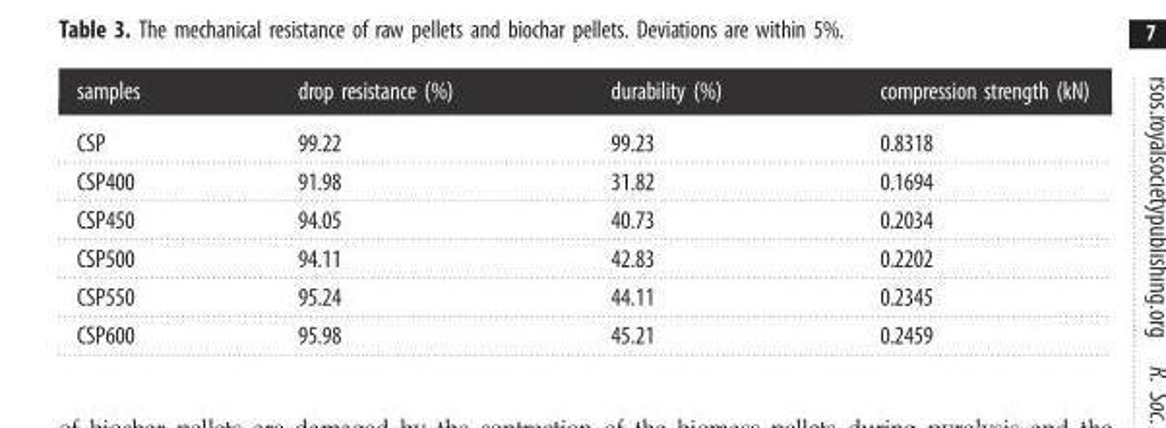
<table><thead><tr><td>samples</td><td>drop resistance (%)</td><td>durability (%)</td><td>compression strength (kN)</td></tr></thead><tbody><tr><td>CSP</td><td>99.22</td><td>99.23</td><td>0.8318</td></tr><tr><td>CSP400</td><td>91.98</td><td>31.82</td><td>0.1694</td></tr><tr><td>CSP450</td><td>94.05</td><td>40.73</td><td>0.2034</td></tr><tr><td>CSP500</td><td>94.11</td><td>42.83</td><td>0.2202</td></tr><tr><td>CSP550</td><td>95.24</td><td>44.11</td><td>0.2345</td></tr><tr><td>CSP600</td><td>95.98</td><td>45.21</td><td>0.2459</td></tr></tbody></table>